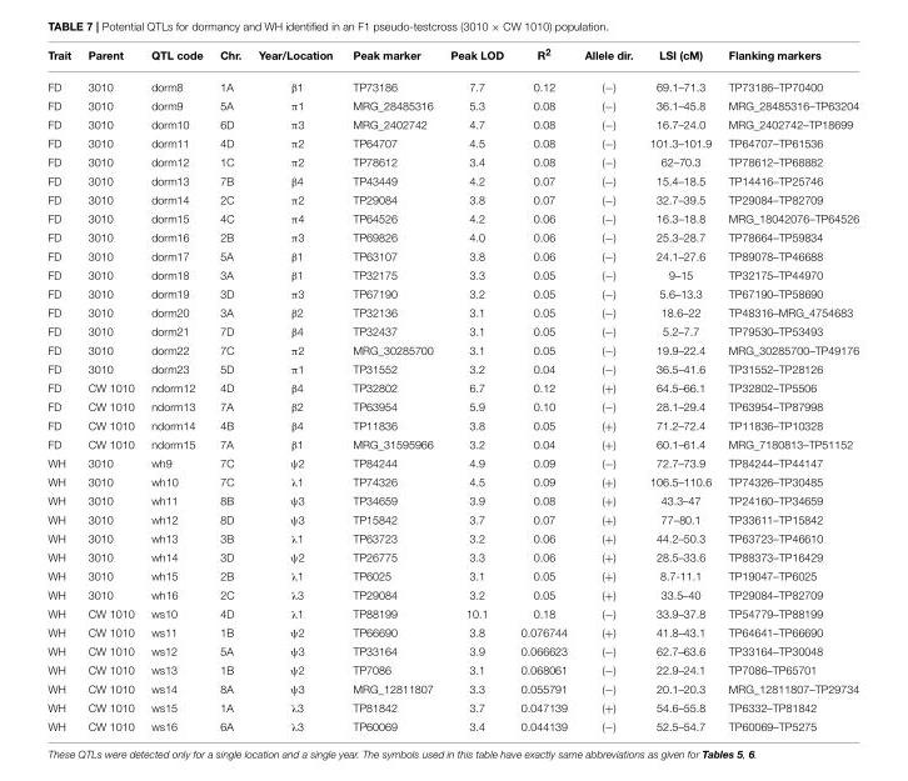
<table><thead><tr><td>Trait</td><td>Parent</td><td>QTL code</td><td>Chr.</td><td>Year/Location</td><td>Peak marker</td><td>Peak LOD</td><td>R<sup>2</sup></td><td>Allele dir.</td><td>LSI (cM)</td><td>Flanking markers</td></tr></thead><tbody><tr><td>FD</td><td>3010</td><td>dorm8</td><td>1A</td><td>β1</td><td>TP73186</td><td>7.7</td><td>0.12</td><td>(−)</td><td>69.1–71.3</td><td>TP73186–TP70400</td></tr><tr><td>FD</td><td>3010</td><td>dorm9</td><td>5A</td><td>π1</td><td>MRG_28485316</td><td>5.3</td><td>0.08</td><td>(−)</td><td>36.1–45.8</td><td>MRG_28485316–TP63204</td></tr><tr><td>FD</td><td>3010</td><td>dorm10</td><td>6D</td><td>π3</td><td>MRG_2402742</td><td>4.7</td><td>0.08</td><td>(−)</td><td>16.7–24.0</td><td>MRG_2402742–TP18699</td></tr><tr><td>FD</td><td>3010</td><td>dorm11</td><td>4D</td><td>π2</td><td>TP64707</td><td>4.5</td><td>0.08</td><td>(−)</td><td>101.3–101.9</td><td>TP64707–TP61536</td></tr><tr><td>FD</td><td>3010</td><td>dorm12</td><td>1C</td><td>π2</td><td>TP78612</td><td>3.4</td><td>0.08</td><td>(−)</td><td>62–70.3</td><td>TP78612–TP68882</td></tr><tr><td>FD</td><td>3010</td><td>dorm13</td><td>7B</td><td>β4</td><td>TP43449</td><td>4.2</td><td>0.07</td><td>(−)</td><td>15.4–18.5</td><td>TP14416–TP25746</td></tr><tr><td>FD</td><td>3010</td><td>dorm14</td><td>2C</td><td>π2</td><td>TP29084</td><td>3.8</td><td>0.07</td><td>(−)</td><td>32.7–39.5</td><td>TP29084–TP82709</td></tr><tr><td>FD</td><td>3010</td><td>dorm15</td><td>4C</td><td>π4</td><td>TP64526</td><td>4.2</td><td>0.06</td><td>(−)</td><td>16.3–18.8</td><td>MRG_18042076–TP64526</td></tr><tr><td>FD</td><td>3010</td><td>dorm16</td><td>2B</td><td>π3</td><td>TP69826</td><td>4.0</td><td>0.06</td><td>(−)</td><td>25.3–28.7</td><td>TP78664–TP59834</td></tr><tr><td>FD</td><td>3010</td><td>dorm17</td><td>5A</td><td>β1</td><td>TP63107</td><td>3.8</td><td>0.06</td><td>(−)</td><td>24.1–27.6</td><td>TP89078–TP46688</td></tr><tr><td>FD</td><td>3010</td><td>dorm18</td><td>3A</td><td>β1</td><td>TP32175</td><td>3.3</td><td>0.05</td><td>(−)</td><td>9–15</td><td>TP32175–TP44970</td></tr><tr><td>FD</td><td>3010</td><td>dorm19</td><td>3D</td><td>π3</td><td>TP67190</td><td>3.2</td><td>0.05</td><td>(−)</td><td>5.6–13.3</td><td>TP67190–TP58690</td></tr><tr><td>FD</td><td>3010</td><td>dorm20</td><td>3A</td><td>β2</td><td>TP32136</td><td>3.1</td><td>0.05</td><td>(−)</td><td>18.6–22</td><td>TP48316–MRG_4754683</td></tr><tr><td>FD</td><td>3010</td><td>dorm21</td><td>7D</td><td>β4</td><td>TP32437</td><td>3.1</td><td>0.05</td><td>(−)</td><td>5.2–7.7</td><td>TP79530–TP53493</td></tr><tr><td>FD</td><td>3010</td><td>dorm22</td><td>7C</td><td>π2</td><td>MRG_30285700</td><td>3.1</td><td>0.05</td><td>(−)</td><td>19.9–22.4</td><td>MRG_30285700–TP49176</td></tr><tr><td>FD</td><td>3010</td><td>dorm23</td><td>5D</td><td>π1</td><td>TP31552</td><td>3.2</td><td>0.04</td><td>(−)</td><td>36.5–41.6</td><td>TP31552–TP28126</td></tr><tr><td>FD</td><td>CW 1010</td><td>ndorm12</td><td>4D</td><td>β4</td><td>TP32802</td><td>6.7</td><td>0.12</td><td>(+)</td><td>64.5–66.1</td><td>TP32802–TP5506</td></tr><tr><td>FD</td><td>CW 1010</td><td>ndorm13</td><td>7A</td><td>β2</td><td>TP63954</td><td>5.9</td><td>0.10</td><td>(−)</td><td>28.1–29.4</td><td>TP63954–TP87998</td></tr><tr><td>FD</td><td>CW 1010</td><td>ndorm14</td><td>4B</td><td>β4</td><td>TP11836</td><td>3.8</td><td>0.05</td><td>(+)</td><td>71.2–72.4</td><td>TP11836–TP10328</td></tr><tr><td>FD</td><td>CW 1010</td><td>ndorm15</td><td>7A</td><td>β1</td><td>MRG_31595966</td><td>3.2</td><td>0.04</td><td>(+)</td><td>60.1–61.4</td><td>MRG_7180813–TP51152</td></tr><tr><td>WH</td><td>3010</td><td>wh9</td><td>7C</td><td>ψ2</td><td>TP84244</td><td>4.9</td><td>0.09</td><td>(−)</td><td>72.7–73.9</td><td>TP84244–TP44147</td></tr><tr><td>WH</td><td>3010</td><td>wh10</td><td>7C</td><td>λ1</td><td>TP74326</td><td>4.5</td><td>0.09</td><td>(+)</td><td>106.5–110.6</td><td>TP74326–TP30485</td></tr><tr><td>WH</td><td>3010</td><td>wh11</td><td>8B</td><td>ψ3</td><td>TP34659</td><td>3.9</td><td>0.08</td><td>(+)</td><td>43.3–47</td><td>TP24160–TP34659</td></tr><tr><td>WH</td><td>3010</td><td>wh12</td><td>8D</td><td>ψ3</td><td>TP15842</td><td>3.7</td><td>0.07</td><td>(+)</td><td>77–80.1</td><td>TP33611–TP15842</td></tr><tr><td>WH</td><td>3010</td><td>wh13</td><td>3B</td><td>λ1</td><td>TP63723</td><td>3.2</td><td>0.06</td><td>(+)</td><td>44.2–50.3</td><td>TP63723–TP46610</td></tr><tr><td>WH</td><td>3010</td><td>wh14</td><td>3D</td><td>ψ2</td><td>TP26775</td><td>3.3</td><td>0.06</td><td>(+)</td><td>28.5–33.6</td><td>TP88373–TP16429</td></tr><tr><td>WH</td><td>3010</td><td>wh15</td><td>2B</td><td>λ1</td><td>TP6025</td><td>3.1</td><td>0.05</td><td>(+)</td><td>8.7-11.1</td><td>TP19047–TP6025</td></tr><tr><td>WH</td><td>3010</td><td>wh16</td><td>2C</td><td>λ3</td><td>TP29084</td><td>3.2</td><td>0.05</td><td>(+)</td><td>33.5–40</td><td>TP29084–TP82709</td></tr><tr><td>WH</td><td>CW 1010</td><td>ws10</td><td>4D</td><td>λ1</td><td>TP88199</td><td>10.1</td><td>0.18</td><td>(−)</td><td>33.9–37.8</td><td>TP54779–TP88199</td></tr><tr><td>WH</td><td>CW 1010</td><td>ws11</td><td>1B</td><td>ψ2</td><td>TP66690</td><td>3.8</td><td>0.076744</td><td>(+)</td><td>41.8–43.1</td><td>TP64641–TP66690</td></tr><tr><td>WH</td><td>CW 1010</td><td>ws12</td><td>5A</td><td>ψ3</td><td>TP33164</td><td>3.9</td><td>0.066623</td><td>(−)</td><td>62.7–63.6</td><td>TP33164–TP30048</td></tr><tr><td>WH</td><td>CW 1010</td><td>ws13</td><td>1B</td><td>ψ2</td><td>TP7086</td><td>3.1</td><td>0.068061</td><td>(−)</td><td>22.9–24.1</td><td>TP7086–TP65701</td></tr><tr><td>WH</td><td>CW 1010</td><td>ws14</td><td>8A</td><td>ψ3</td><td>MRG_12811807</td><td>3.3</td><td>0.055791</td><td>(−)</td><td>20.1–20.3</td><td>MRG_12811807–TP29734</td></tr><tr><td>WH</td><td>CW 1010</td><td>ws15</td><td>1A</td><td>λ3</td><td>TP81842</td><td>3.7</td><td>0.047139</td><td>(+)</td><td>54.6–55.8</td><td>TP6332–TP81842</td></tr><tr><td>WH</td><td>CW 1010</td><td>ws16</td><td>6A</td><td>λ3</td><td>TP60069</td><td>3.4</td><td>0.044139</td><td>(−)</td><td>52.5–54.7</td><td>TP60069–TP5275</td></tr></tbody></table>